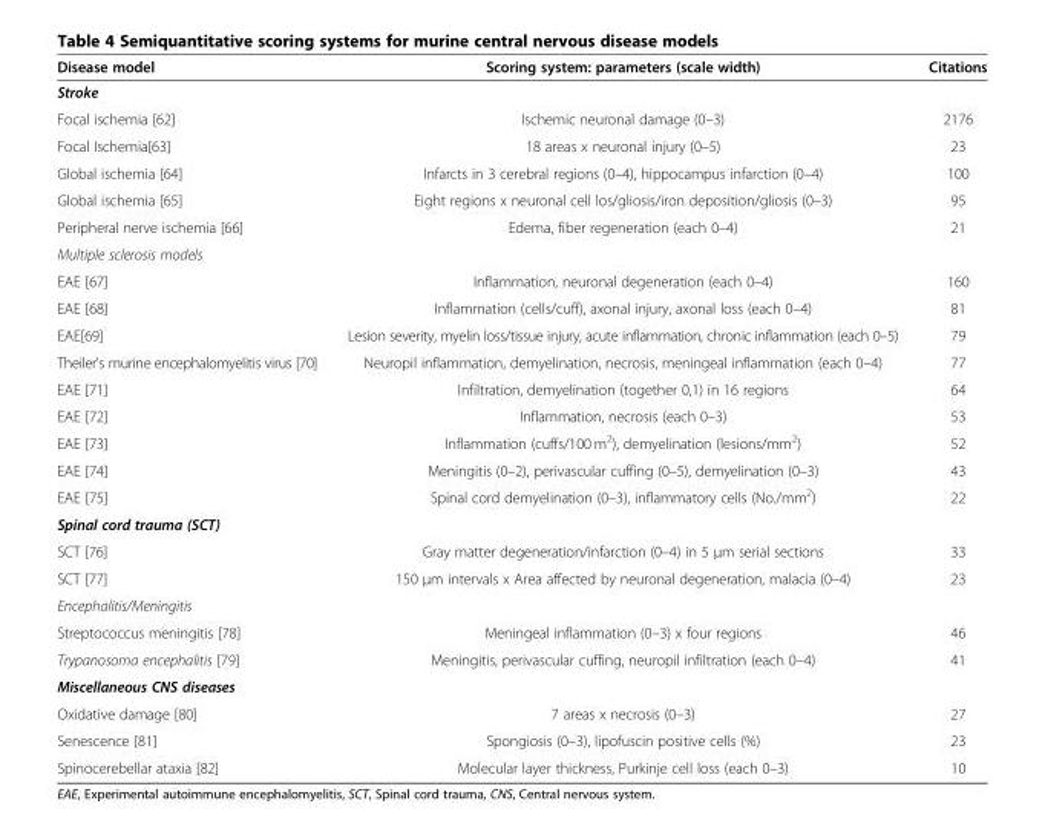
<table><thead><tr><td>Disease model</td><td>Scoring system: parameters (scale width)</td><td>Citations</td></tr></thead><tbody><tr><td colspan="3">Stroke</td></tr><tr><td>Focal ischemia [62]</td><td>Ischemic neuronal damage (0–3)</td><td>2176</td></tr><tr><td>Focal Ischemia[63]</td><td>18 areas x neuronal injury (0–5)</td><td>23</td></tr><tr><td>Global ischemia [64]</td><td>Infarcts in 3 cerebral regions (0–4), hippocampus infarction (0–4)</td><td>100</td></tr><tr><td>Global ischemia [65]</td><td>Eight regions x neuronal cell los/gliosis/iron deposition/gliosis (0–3)</td><td>95</td></tr><tr><td>Peripheral nerve ischemia [66]</td><td>Edema, fiber regeneration (each 0–4)</td><td>21</td></tr><tr><td colspan="3">Multiple sclerosis models</td></tr><tr><td>EAE [67]</td><td>Inflammation, neuronal degeneration (each 0–4)</td><td>160</td></tr><tr><td>EAE [68]</td><td>Inflammation (cells/cuff), axonal injury, axonal loss (each 0–4)</td><td>81</td></tr><tr><td>EAE[69]</td><td>Lesion severity, myelin loss/tissue injury, acute inflammation, chronic inflammation (each 0–5)</td><td>79</td></tr><tr><td>Theiler&#x27;s murine encephalomyelitis virus [70]</td><td>Neuropil inflammation, demyelination, necrosis, meningeal inflammation (each 0–4)</td><td>77</td></tr><tr><td>EAE [71]</td><td>Infiltration, demyelination (together 0,1) in 16 regions</td><td>64</td></tr><tr><td>EAE [72]</td><td>Inflammation, necrosis (each 0–3)</td><td>53</td></tr><tr><td>EAE [73]</td><td>Inflammation (cuffs/100 m<sup>2</sup>), demyelination (lesions/mm<sup>2</sup>)</td><td>52</td></tr><tr><td>EAE [74]</td><td>Meningitis (0–2), perivascular cuffing (0–5), demyelination (0–3)</td><td>43</td></tr><tr><td>EAE [75]</td><td>Spinal cord demyelination (0–3), inflammatory cells (No./mm<sup>2</sup>)</td><td>22</td></tr><tr><td colspan="3">Spinal cord trauma (SCT)</td></tr><tr><td>SCT [76]</td><td>Gray matter degeneration/infarction (0–4) in 5 μm serial sections</td><td>33</td></tr><tr><td>SCT [77]</td><td>150 μm intervals x Area affected by neuronal degeneration, malacia (0–4)</td><td>23</td></tr><tr><td colspan="3">Encephalitis/Meningitis</td></tr><tr><td>Streptococcus meningitis [78]</td><td>Meningeal inflammation (0–3) x four regions</td><td>46</td></tr><tr><td>Trypanosoma encephalitis [79]</td><td>Meningitis, perivascular cuffing, neuropil infiltration (each 0–4)</td><td>41</td></tr><tr><td colspan="3">Miscellaneous CNS diseases</td></tr><tr><td>Oxidative damage [80]</td><td>7 areas x necrosis (0–3)</td><td>27</td></tr><tr><td>Senescence [81]</td><td>Spongiosis (0–3), lipofuscin positive cells (%)</td><td>23</td></tr><tr><td>Spinocerebellar ataxia [82]</td><td>Molecular layer thickness, Purkinje cell loss (each 0–3)</td><td>10</td></tr></tbody></table>